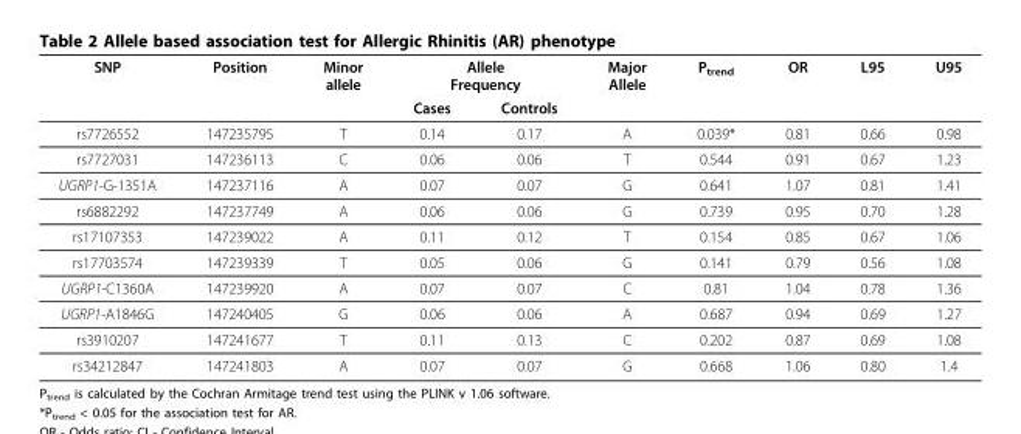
<table><thead><tr><td rowspan="2">SNP</td><td rowspan="2">Position</td><td rowspan="2">Minor allele</td><td colspan="2">Allele Frequency</td><td rowspan="2">Major Allele</td><td rowspan="2">P<sub>trend</sub></td><td rowspan="2">OR</td><td rowspan="2">L95</td><td rowspan="2">U95</td></tr><tr><td>Cases</td><td>Controls</td></tr></thead><tbody><tr><td>rs7726552</td><td>147235795</td><td>T</td><td>0.14</td><td>0.17</td><td>A</td><td>0.039*</td><td>0.81</td><td>0.66</td><td>0.98</td></tr><tr><td>rs7727031</td><td>147236113</td><td>C</td><td>0.06</td><td>0.06</td><td>T</td><td>0.544</td><td>0.91</td><td>0.67</td><td>1.23</td></tr><tr><td>UGRP1-G-1351A</td><td>147237116</td><td>A</td><td>0.07</td><td>0.07</td><td>G</td><td>0.641</td><td>1.07</td><td>0.81</td><td>1.41</td></tr><tr><td>rs6882292</td><td>147237749</td><td>A</td><td>0.06</td><td>0.06</td><td>G</td><td>0.739</td><td>0.95</td><td>0.70</td><td>1.28</td></tr><tr><td>rs17107353</td><td>147239022</td><td>A</td><td>0.11</td><td>0.12</td><td>T</td><td>0.154</td><td>0.85</td><td>0.67</td><td>1.06</td></tr><tr><td>rs17703574</td><td>147239339</td><td>T</td><td>0.05</td><td>0.06</td><td>G</td><td>0.141</td><td>0.79</td><td>0.56</td><td>1.08</td></tr><tr><td>UGRP1-C1360A</td><td>147239920</td><td>A</td><td>0.07</td><td>0.07</td><td>C</td><td>0.81</td><td>1.04</td><td>0.78</td><td>1.36</td></tr><tr><td>UGRP1-A1846G</td><td>147240405</td><td>G</td><td>0.06</td><td>0.06</td><td>A</td><td>0.687</td><td>0.94</td><td>0.69</td><td>1.27</td></tr><tr><td>rs3910207</td><td>147241677</td><td>T</td><td>0.11</td><td>0.13</td><td>C</td><td>0.202</td><td>0.87</td><td>0.69</td><td>1.08</td></tr><tr><td>rs34212847</td><td>147241803</td><td>A</td><td>0.07</td><td>0.07</td><td>G</td><td>0.668</td><td>1.06</td><td>0.80</td><td>1.4</td></tr></tbody></table>